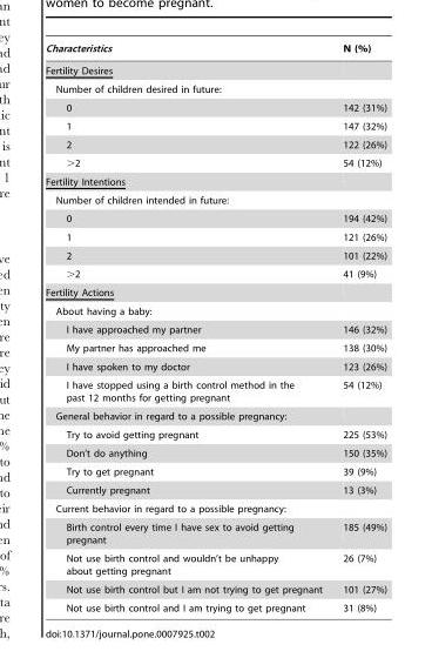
<table><thead><tr><td>Characteristics</td><td>N (%)</td></tr></thead><tbody><tr><td colspan="2">Fertility Desires</td></tr><tr><td colspan="2">Number of children desired in future:</td></tr><tr><td>0</td><td>142 (31%)</td></tr><tr><td>1</td><td>147 (32%)</td></tr><tr><td>2</td><td>122 (26%)</td></tr><tr><td>&gt;2</td><td>54 (12%)</td></tr><tr><td colspan="2">Fertility Intentions</td></tr><tr><td colspan="2">Number of children intended in future:</td></tr><tr><td>0</td><td>194 (42%)</td></tr><tr><td>1</td><td>121 (26%)</td></tr><tr><td>2</td><td>101 (22%)</td></tr><tr><td>&gt;2</td><td>41 (9%)</td></tr><tr><td colspan="2">Fertility Actions</td></tr><tr><td colspan="2">About having a baby:</td></tr><tr><td>I have approached my partner</td><td>146 (32%)</td></tr><tr><td>My partner has approached me</td><td>138 (30%)</td></tr><tr><td>I have spoken to my doctor</td><td>123 (26%)</td></tr><tr><td>I have stopped using a birth control method in the past 12 months for getting pregnant</td><td>54 (12%)</td></tr><tr><td colspan="2">General behavior in regard to a possible pregnancy:</td></tr><tr><td>Try to avoid getting pregnant</td><td>225 (53%)</td></tr><tr><td>Don’t do anything</td><td>150 (35%)</td></tr><tr><td>Try to get pregnant</td><td>39 (9%)</td></tr><tr><td>Currently pregnant</td><td>13 (3%)</td></tr><tr><td colspan="2">Current behavior in regard to a possible pregnancy:</td></tr><tr><td>Birth control every time I have sex to avoid getting pregnant</td><td>185 (49%)</td></tr><tr><td>Not use birth control and wouldn’t be unhappy about getting pregnant</td><td>26 (7%)</td></tr><tr><td>Not use birth control but I am not trying to get pregnant</td><td>101 (27%)</td></tr><tr><td>Not use birth control and I am trying to get pregnant</td><td>31 (8%)</td></tr></tbody></table>